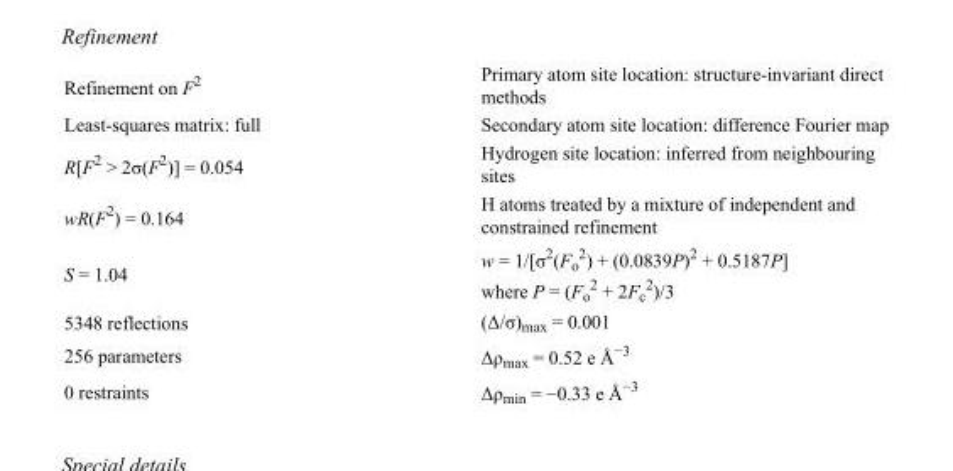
<table><tbody><tr><td>Refinement on F<sup>2</sup></td><td>Primary atom site location: structure-invariant direct methods</td></tr><tr><td>Least-squares matrix: full</td><td>Secondary atom site location: difference Fourier map</td></tr><tr><td>R[F<sup>2</sup> &gt; 2σ(F<sup>2</sup>)] = 0.054</td><td>Hydrogen site location: inferred from neighbouring sites</td></tr><tr><td>wR(F<sup>2</sup>) = 0.164</td><td>H atoms treated by a mixture of independent and constrained refinement</td></tr><tr><td>S = 1.04</td><td>w = 1/[σ<sup>2</sup>(F<sub>o</sub> <sup>2</sup>) + (0.0839P)<sup>2</sup> + 0.5187P] where P = (F<sub>o</sub> <sup>2</sup> + 2F<sub>c</sub> <sup>2</sup>)/3</td></tr><tr><td>5348 reflections</td><td>(Δ/σ)<sub>max</sub> = 0.001</td></tr><tr><td>256 parameters</td><td>Δρ<sub>max</sub> = 0.52 e Å<sup>−3</sup></td></tr><tr><td>0 restraints</td><td>Δρ<sub>min</sub> = −0.33 e Å<sup>−3</sup></td></tr></tbody></table>